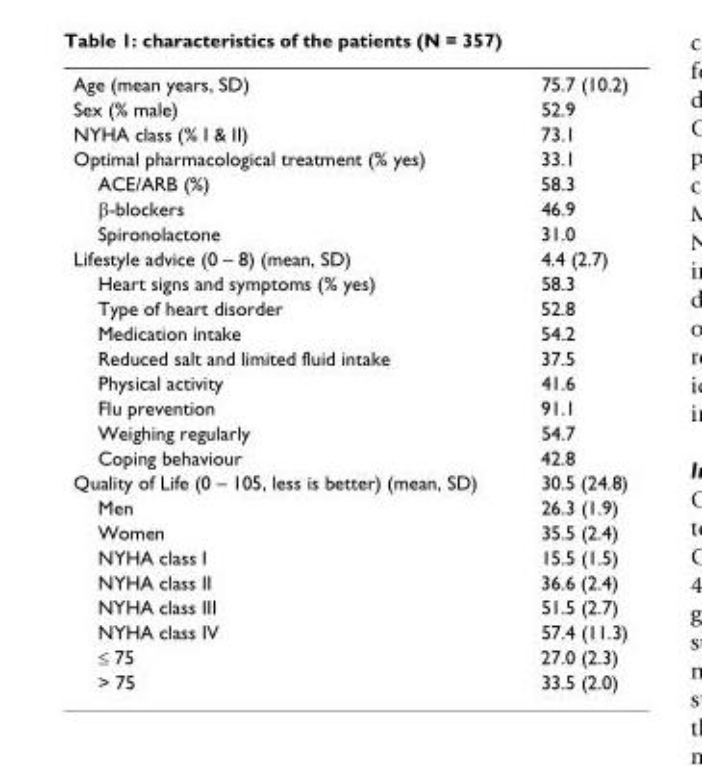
<table><tbody><tr><td>Age (mean years, SD)</td><td>75.7 (10.2)</td></tr><tr><td>Sex (% male)</td><td>52.9</td></tr><tr><td>NYHA class (% I &amp; II)</td><td>73.1</td></tr><tr><td>Optimal pharmacological treatment (% yes)</td><td>33.1</td></tr><tr><td>ACE/ARB (%)</td><td>58.3</td></tr><tr><td>β-blockers</td><td>46.9</td></tr><tr><td>Spironolactone</td><td>31.0</td></tr><tr><td>Lifestyle advice (0 – 8) (mean, SD)</td><td>4.4 (2.7)</td></tr><tr><td>Heart signs and symptoms (% yes)</td><td>58.3</td></tr><tr><td>Type of heart disorder</td><td>52.8</td></tr><tr><td>Medication intake</td><td>54.2</td></tr><tr><td>Reduced salt and limited fluid intake</td><td>37.5</td></tr><tr><td>Physical activity</td><td>41.6</td></tr><tr><td>Flu prevention</td><td>91.1</td></tr><tr><td>Weighing regularly</td><td>54.7</td></tr><tr><td>Coping behaviour</td><td>42.8</td></tr><tr><td>Quality of Life (0 – 105, less is better) (mean, SD)</td><td>30.5 (24.8)</td></tr><tr><td>Men</td><td>26.3 (1.9)</td></tr><tr><td>Women</td><td>35.5 (2.4)</td></tr><tr><td>NYHA class I</td><td>15.5 (1.5)</td></tr><tr><td>NYHA class II</td><td>36.6 (2.4)</td></tr><tr><td>NYHA class III</td><td>51.5 (2.7)</td></tr><tr><td>NYHA class IV</td><td>57.4 (11.3)</td></tr><tr><td>≤ 75</td><td>27.0 (2.3)</td></tr><tr><td>&gt; 75</td><td>33.5 (2.0)</td></tr></tbody></table>